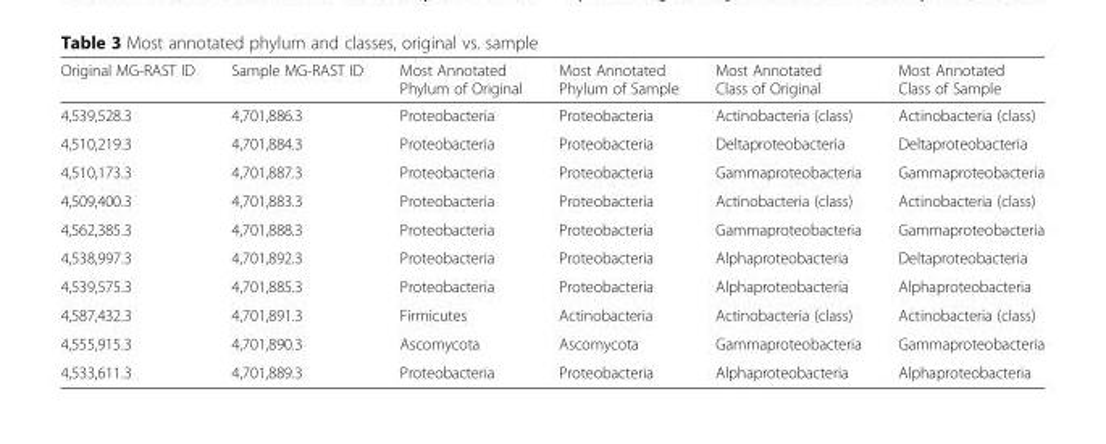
<table><thead><tr><td>Original MG-RAST ID</td><td>Sample MG-RAST ID</td><td>Most Annotated Phylum of Original</td><td>Most Annotated Phylum of Sample</td><td>Most Annotated Class of Original</td><td>Most Annotated Class of Sample</td></tr></thead><tbody><tr><td>4,539,528.3</td><td>4,701,886.3</td><td>Proteobacteria</td><td>Proteobacteria</td><td>Actinobacteria (class)</td><td>Actinobacteria (class)</td></tr><tr><td>4,510,219.3</td><td>4,701,884.3</td><td>Proteobacteria</td><td>Proteobacteria</td><td>Deltaproteobacteria</td><td>Deltaproteobacteria</td></tr><tr><td>4,510,173.3</td><td>4,701,887.3</td><td>Proteobacteria</td><td>Proteobacteria</td><td>Gammaproteobacteria</td><td>Gammaproteobacteria</td></tr><tr><td>4,509,400.3</td><td>4,701,883.3</td><td>Proteobacteria</td><td>Proteobacteria</td><td>Actinobacteria (class)</td><td>Actinobacteria (class)</td></tr><tr><td>4,562,385.3</td><td>4,701,888.3</td><td>Proteobacteria</td><td>Proteobacteria</td><td>Gammaproteobacteria</td><td>Gammaproteobacteria</td></tr><tr><td>4,538,997.3</td><td>4,701,892.3</td><td>Proteobacteria</td><td>Proteobacteria</td><td>Alphaproteobacteria</td><td>Deltaproteobacteria</td></tr><tr><td>4,539,575.3</td><td>4,701,885.3</td><td>Proteobacteria</td><td>Proteobacteria</td><td>Alphaproteobacteria</td><td>Alphaproteobacteria</td></tr><tr><td>4,587,432.3</td><td>4,701,891.3</td><td>Firmicutes</td><td>Actinobacteria</td><td>Actinobacteria (class)</td><td>Actinobacteria (class)</td></tr><tr><td>4,555,915.3</td><td>4,701,890.3</td><td>Ascomycota</td><td>Ascomycota</td><td>Gammaproteobacteria</td><td>Gammaproteobacteria</td></tr><tr><td>4,533,611.3</td><td>4,701,889.3</td><td>Proteobacteria</td><td>Proteobacteria</td><td>Alphaproteobacteria</td><td>Alphaproteobacteria</td></tr></tbody></table>